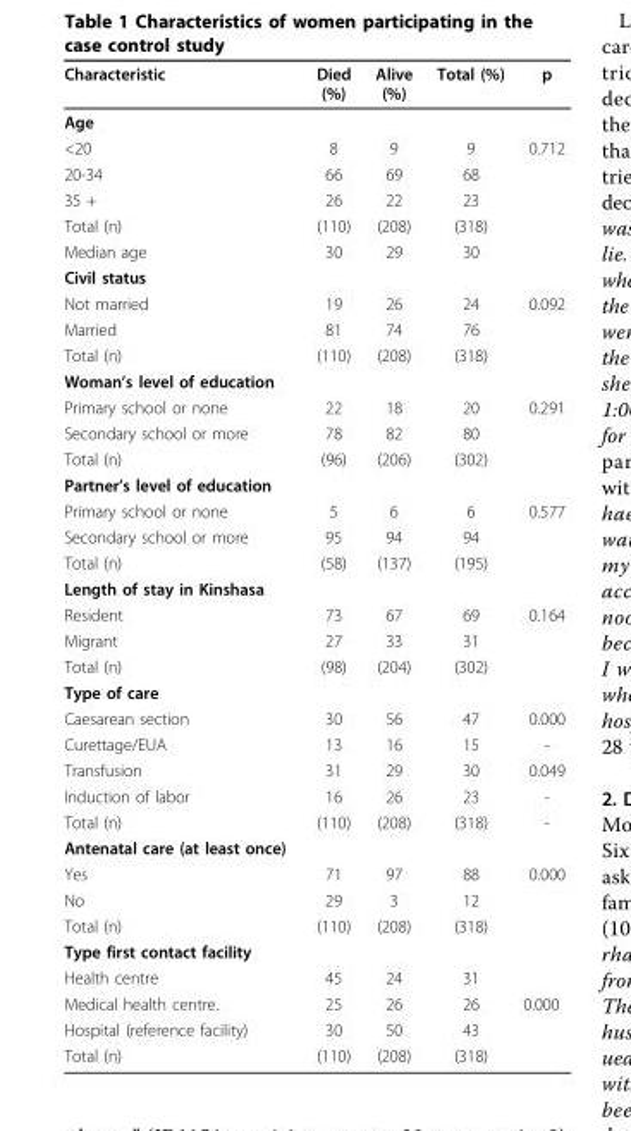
<table><thead><tr><td>Characteristic</td><td>Died (%)</td><td>Alive (%)</td><td>Total (%)</td><td>p</td></tr></thead><tbody><tr><td colspan="5">Age</td></tr><tr><td>&lt;20</td><td>8</td><td>9</td><td>9</td><td>0.712</td></tr><tr><td>20-34</td><td>66</td><td>69</td><td>68</td><td></td></tr><tr><td>35 +</td><td>26</td><td>22</td><td>23</td><td></td></tr><tr><td>Total (n)</td><td>(110)</td><td>(208)</td><td>(318)</td><td></td></tr><tr><td>Median age</td><td>30</td><td>29</td><td>30</td><td></td></tr><tr><td colspan="5">Civil status</td></tr><tr><td>Not married</td><td>19</td><td>26</td><td>24</td><td>0.092</td></tr><tr><td>Married</td><td>81</td><td>74</td><td>76</td><td></td></tr><tr><td>Total (n)</td><td>(110)</td><td>(208)</td><td>(318)</td><td></td></tr><tr><td colspan="5">Woman’s level of education</td></tr><tr><td>Primary school or none</td><td>22</td><td>18</td><td>20</td><td>0.291</td></tr><tr><td>Secondary school or more</td><td>78</td><td>82</td><td>80</td><td></td></tr><tr><td>Total (n)</td><td>(96)</td><td>(206)</td><td>(302)</td><td></td></tr><tr><td colspan="5">Partner’s level of education</td></tr><tr><td>Primary school or none</td><td>5</td><td>6</td><td>6</td><td>0.577</td></tr><tr><td>Secondary school or more</td><td>95</td><td>94</td><td>94</td><td></td></tr><tr><td>Total (n)</td><td>(58)</td><td>(137)</td><td>(195)</td><td></td></tr><tr><td colspan="5">Length of stay in Kinshasa</td></tr><tr><td>Resident</td><td>73</td><td>67</td><td>69</td><td>0.164</td></tr><tr><td>Migrant</td><td>27</td><td>33</td><td>31</td><td></td></tr><tr><td>Total (n)</td><td>(98)</td><td>(204)</td><td>(302)</td><td></td></tr><tr><td colspan="5">Type of care</td></tr><tr><td>Caesarean section</td><td>30</td><td>56</td><td>47</td><td>0.000</td></tr><tr><td>Curettage/EUA</td><td>13</td><td>16</td><td>15</td><td>-</td></tr><tr><td>Transfusion</td><td>31</td><td>29</td><td>30</td><td>0.049</td></tr><tr><td>Induction of labor</td><td>16</td><td>26</td><td>23</td><td>-</td></tr><tr><td>Total (n)</td><td>(110)</td><td>(208)</td><td>(318)</td><td>-</td></tr><tr><td colspan="5">Antenatal care (at least once)</td></tr><tr><td>Yes</td><td>71</td><td>97</td><td>88</td><td>0.000</td></tr><tr><td>No</td><td>29</td><td>3</td><td>12</td><td></td></tr><tr><td>Total (n)</td><td>(110)</td><td>(208)</td><td>(318)</td><td></td></tr><tr><td colspan="5">Type first contact facility</td></tr><tr><td>Health centre</td><td>45</td><td>24</td><td>31</td><td></td></tr><tr><td>Medical health centre.</td><td>25</td><td>26</td><td>26</td><td>0.000</td></tr><tr><td>Hospital (reference facility)</td><td>30</td><td>50</td><td>43</td><td></td></tr><tr><td>Total (n)</td><td>(110)</td><td>(208)</td><td>(318)</td><td></td></tr></tbody></table>